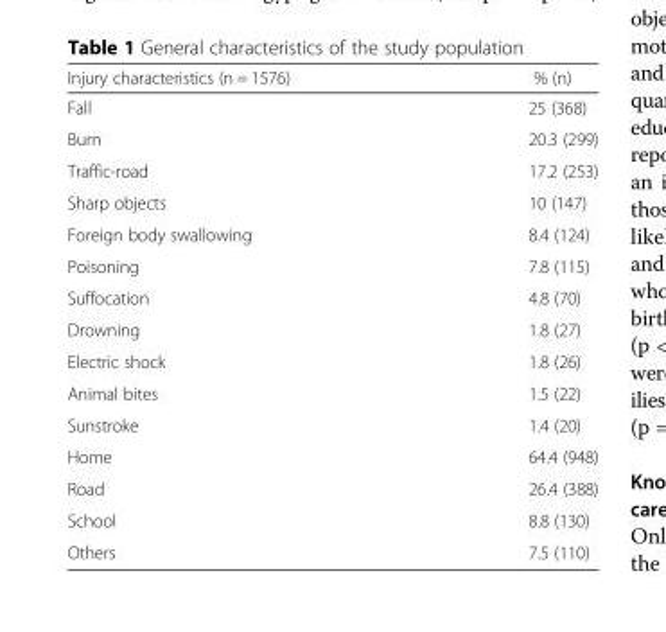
<table><thead><tr><td>Injury characteristics (n = 1576)</td><td>% (n)</td></tr></thead><tbody><tr><td>Fall</td><td>25 (368)</td></tr><tr><td>Burn</td><td>20.3 (299)</td></tr><tr><td>Traffic-road</td><td>17.2 (253)</td></tr><tr><td>Sharp objects</td><td>10 (147)</td></tr><tr><td>Foreign body swallowing</td><td>8.4 (124)</td></tr><tr><td>Poisoning</td><td>7.8 (115)</td></tr><tr><td>Suffocation</td><td>4.8 (70)</td></tr><tr><td>Drowning</td><td>1.8 (27)</td></tr><tr><td>Electric shock</td><td>1.8 (26)</td></tr><tr><td>Animal bites</td><td>1.5 (22)</td></tr><tr><td>Sunstroke</td><td>1.4 (20)</td></tr><tr><td>Home</td><td>64.4 (948)</td></tr><tr><td>Road</td><td>26.4 (388)</td></tr><tr><td>School</td><td>8.8 (130)</td></tr><tr><td>Others</td><td>7.5 (110)</td></tr></tbody></table>